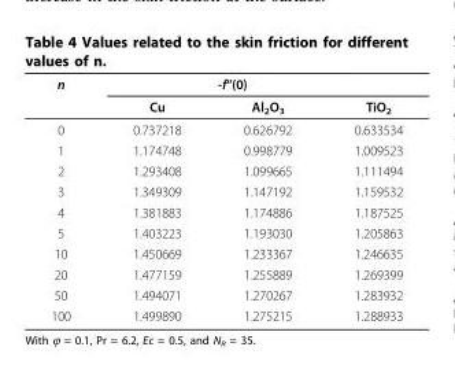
<table><thead><tr><td rowspan="2">of n. n</td><td rowspan="2">Cu</td><td rowspan="2">-f“(0) Al2O3</td><td rowspan="2">TiO<sub>2</sub></td></tr><tr></tr></thead><tbody><tr><td>0</td><td>0.737218</td><td>0.626792</td><td>0.633534</td></tr><tr><td>1</td><td>1.174748</td><td>0.998779</td><td>1.009523</td></tr><tr><td>2</td><td>1.293408</td><td>1.099665</td><td>1.111494</td></tr><tr><td>3</td><td>1.349309</td><td>1.147192</td><td>1.159532</td></tr><tr><td>4</td><td>1.381883</td><td>1.174886</td><td>1.187525</td></tr><tr><td>5</td><td>1.403223</td><td>1.193030</td><td>1.205863</td></tr><tr><td>10</td><td>1.450669</td><td>1.233367</td><td>1.246635</td></tr><tr><td>20</td><td>1.477159</td><td>1.255889</td><td>1.269399</td></tr><tr><td>50</td><td>1.494071</td><td>1.270267</td><td>1.283932</td></tr><tr><td>100</td><td>1.499890</td><td>1.275215</td><td>1.288933</td></tr></tbody></table>